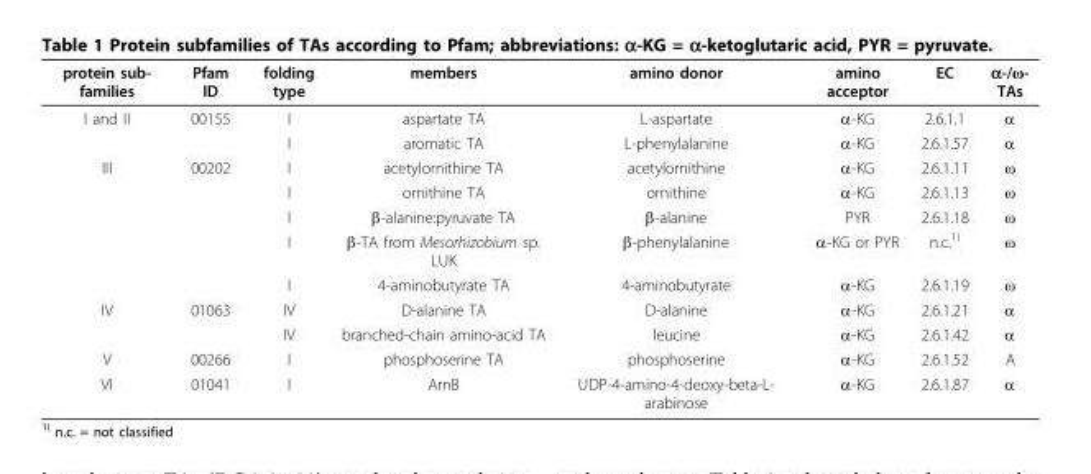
<table><thead><tr><td>protein sub- families</td><td>Pfam ID</td><td>folding type</td><td>members</td><td>amino donor</td><td>amino acceptor</td><td>EC</td><td>α-/ω- TAs</td></tr></thead><tbody><tr><td rowspan="2">I and II</td><td>00155</td><td>I</td><td>aspartate TA</td><td>L-aspartate</td><td>α-KG</td><td>2.6.1.1</td><td>α</td></tr><tr><td></td><td>I</td><td>aromatic TA</td><td>L-phenylalanine</td><td>α-KG</td><td>2.6.1.57</td><td>α</td></tr><tr><td rowspan="5">III</td><td>00202</td><td>I</td><td>acetylornithine TA</td><td>acetylornithine</td><td>α-KG</td><td>2.6.1.11</td><td>ω</td></tr><tr><td></td><td>I</td><td>ornithine TA</td><td>ornithine</td><td>α-KG</td><td>2.6.1.13</td><td>ω</td></tr><tr><td></td><td>I</td><td>β-alanine:pyruvate TA</td><td>β-alanine</td><td>PYR</td><td>2.6.1.18</td><td>ω</td></tr><tr><td></td><td>I</td><td>β-TA from Mesorhizobium sp. LUK</td><td>β-phenylalanine</td><td>α-KG or PYR</td><td>n.c.<sup>1)</sup></td><td>ω</td></tr><tr><td></td><td>I</td><td>4-aminobutyrate TA</td><td>4-aminobutyrate</td><td>α-KG</td><td>2.6.1.19</td><td>ω</td></tr><tr><td rowspan="2">IV</td><td>01063</td><td>IV</td><td>D-alanine TA</td><td>D-alanine</td><td>α-KG</td><td>2.6.1.21</td><td>α</td></tr><tr><td></td><td>IV</td><td>branched-chain amino-acid TA</td><td>leucine</td><td>α-KG</td><td>2.6.1.42</td><td>α</td></tr><tr><td>V</td><td>00266</td><td>I</td><td>phosphoserine TA</td><td>phosphoserine</td><td>α-KG</td><td>2.6.1.52</td><td>Α</td></tr><tr><td>VI</td><td>01041</td><td>I</td><td>ArnB</td><td>UDP-4-amino-4-deoxy-beta-L- arabinose</td><td>α-KG</td><td>2.6.1.87</td><td>α</td></tr></tbody></table>